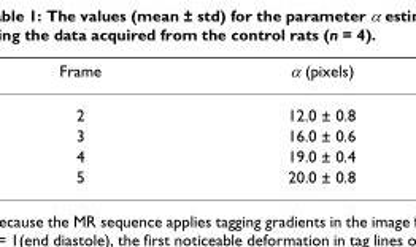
<table><thead><tr><td>Frame</td><td>α (pixels)</td></tr></thead><tbody><tr><td>2</td><td>12.0 ± 0.8</td></tr><tr><td>3</td><td>16.0 ± 0.6</td></tr><tr><td>4</td><td>19.0 ± 0.4</td></tr><tr><td>5</td><td>20.0 ± 0.8</td></tr></tbody></table>